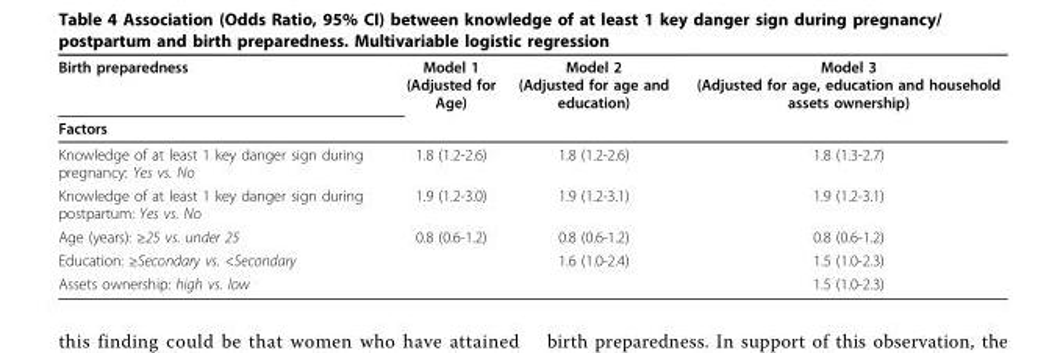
<table><thead><tr><td rowspan="2">Birth preparedness Factors</td><td rowspan="2">Model 1 (Adjusted for Age)</td><td rowspan="2">Model 2 (Adjusted for age and education)</td><td rowspan="2">Model 3 (Adjusted for age, education and household assets ownership)</td></tr><tr></tr></thead><tbody><tr><td>Knowledge of at least 1 key danger sign during pregnancy: Yes vs. No</td><td>1.8 (1.2-2.6)</td><td>1.8 (1.2-2.6)</td><td>1.8 (1.3-2.7)</td></tr><tr><td>Knowledge of at least 1 key danger sign during postpartum: Yes vs. No</td><td>1.9 (1.2-3.0)</td><td>1.9 (1.2-3.1)</td><td>1.9 (1.2-3.1)</td></tr><tr><td>Age (years): ≥25 vs. under 25</td><td>0.8 (0.6-1.2)</td><td>0.8 (0.6-1.2)</td><td>0.8 (0.6-1.2)</td></tr><tr><td>Education: ≥Secondary vs. &lt;Secondary</td><td></td><td>1.6 (1.0-2.4)</td><td>1.5 (1.0-2.3)</td></tr><tr><td>Assets ownership: high vs. low</td><td></td><td></td><td>1.5 (1.0-2.3)</td></tr></tbody></table>